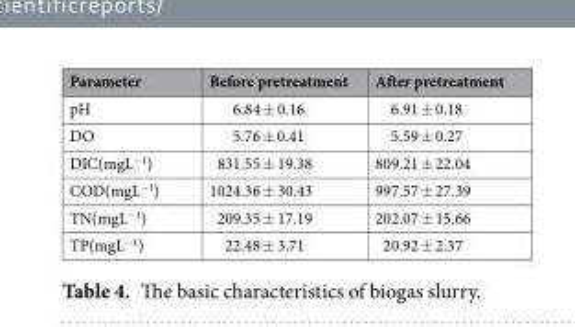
<table><thead><tr><td>Parameter</td><td>Before pretreatment</td><td>After pretreatment</td></tr></thead><tbody><tr><td>pH</td><td>6.84 ± 0.16</td><td>6.91 ± 0.18</td></tr><tr><td>DO</td><td>5.76 ± 0.41</td><td>5.59 ± 0.27</td></tr><tr><td>DIC(mgL<sup>−1</sup>)</td><td>831.55 ± 19.38</td><td>809.21 ± 22.04</td></tr><tr><td>COD(mgL<sup>−1</sup>)</td><td>1024.36 ± 30.43</td><td>997.57 ± 27.39</td></tr><tr><td>TN(mgL<sup>−1</sup>)</td><td>209.35 ± 17.19</td><td>202.07 ± 15.66</td></tr><tr><td>TP(mgL<sup>−1</sup>)</td><td>22.48 ± 3.71</td><td>20.92 ± 2.37</td></tr></tbody></table>